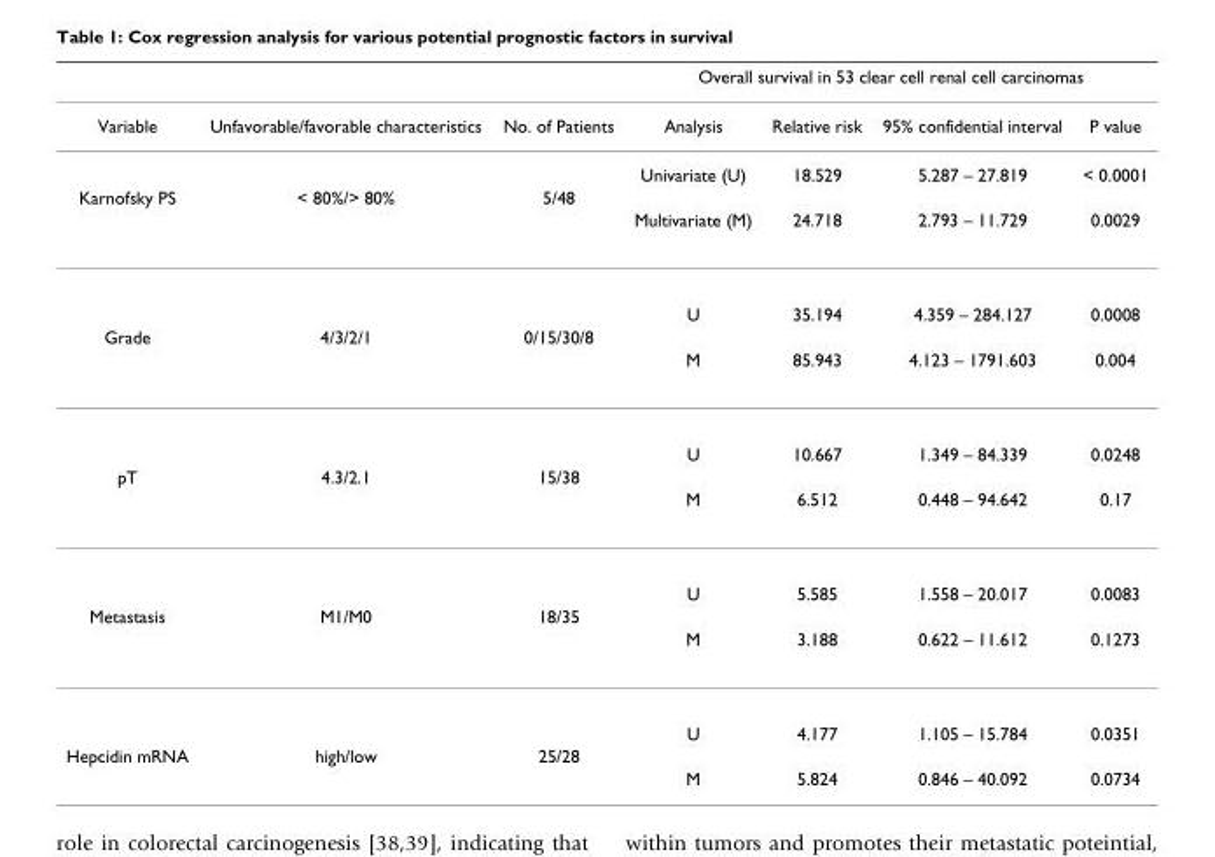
<table><thead><tr><td rowspan="2">Variable</td><td rowspan="2">Unfavorable/favorable characteristics</td><td rowspan="2">No. of Patients</td><td colspan="4">Overall survival in 53 clear cell renal cell carcinomas</td></tr><tr><td>Analysis</td><td>Relative risk</td><td>95% confidential interval</td><td>P value</td></tr></thead><tbody><tr><td></td><td></td><td></td><td>Univariate (U)</td><td>18.529</td><td>5.287 – 27.819</td><td>&lt; 0.0001</td></tr><tr><td rowspan="3">Karnofsky PS</td><td>&lt; 80%/&gt; 80%</td><td>5/48</td><td></td><td></td><td></td><td></td></tr><tr><td></td><td></td><td>Multivariate (M)</td><td>24.718</td><td>2.793 – 11.729</td><td>0.0029</td></tr><tr><td></td><td></td><td>U</td><td>35.194</td><td>4.359 – 284.127</td><td>0.0008</td></tr><tr><td rowspan="3">Grade</td><td>4/3/2/1</td><td>0/15/30/8</td><td></td><td></td><td></td><td></td></tr><tr><td></td><td></td><td>M</td><td>85.943</td><td>4.123 – 1791.603</td><td>0.004</td></tr><tr><td></td><td></td><td>U</td><td>10.667</td><td>1.349 – 84.339</td><td>0.0248</td></tr><tr><td rowspan="3">pT</td><td>4.3/2.1</td><td>15/38</td><td></td><td></td><td></td><td></td></tr><tr><td></td><td></td><td>M</td><td>6.512</td><td>0.448 – 94.642</td><td>0.17</td></tr><tr><td></td><td></td><td>U</td><td>5.585</td><td>1.558 – 20.017</td><td>0.0083</td></tr><tr><td rowspan="3">Metastasis</td><td>M1/M0</td><td>18/35</td><td></td><td></td><td></td><td></td></tr><tr><td></td><td></td><td>M</td><td>3.188</td><td>0.622 – 11.612</td><td>0.1273</td></tr><tr><td></td><td></td><td>U</td><td>4.177</td><td>1.105 – 15.784</td><td>0.0351</td></tr><tr><td rowspan="2">Hepcidin mRNA</td><td>high/low</td><td>25/28</td><td></td><td></td><td></td><td></td></tr><tr><td></td><td></td><td>M</td><td>5.824</td><td>0.846 – 40.092</td><td>0.0734</td></tr></tbody></table>